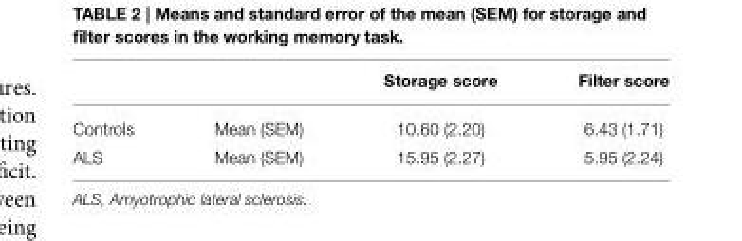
<table><thead><tr><td></td><td></td><td>Storage score</td><td>Filter score</td></tr></thead><tbody><tr><td>Controls</td><td>Mean (SEM)</td><td>10.60 (2.20)</td><td>6.43 (1.71)</td></tr><tr><td>ALS</td><td>Mean (SEM)</td><td>15.95 (2.27)</td><td>5.95 (2.24)</td></tr></tbody></table>